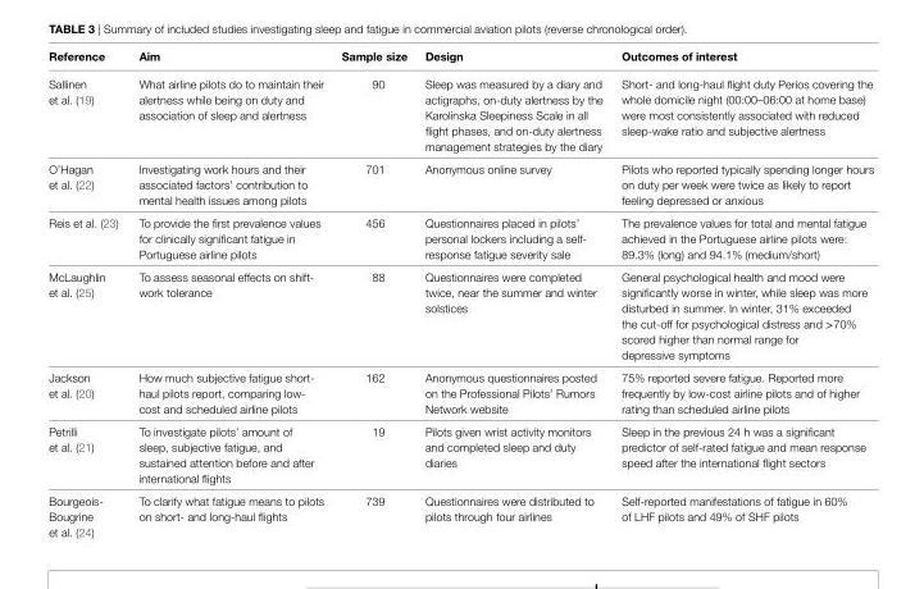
<table><thead><tr><td>Reference</td><td>aim</td><td>Sample size</td><td>Design</td><td>Outcomes of interest</td></tr></thead><tbody><tr><td>Sallinen et al. (19)</td><td>What airline pilots do to maintain their alertness while being on duty and association of sleep and alertness</td><td>90</td><td>Sleep was measured by a diary and actigraphs, on-duty alertness by the Karolinska Sleepiness Scale in all flight phases, and on-duty alertness management strategies by the diary</td><td>Short- and long-haul flight duty Perios covering the whole domicile night (00:00–06:00 at home base) were most consistently associated with reduced sleep-wake ratio and subjective alertness</td></tr><tr><td>O’Hagan et al. (22)</td><td>Investigating work hours and their associated factors’ contribution to mental health issues among pilots</td><td>701</td><td>Anonymous online survey</td><td>Pilots who reported typically spending longer hours on duty per week were twice as likely to report feeling depressed or anxious</td></tr><tr><td>Reis et al. (23)</td><td>To provide the first prevalence values for clinically significant fatigue in Portuguese airline pilots</td><td>456</td><td>Questionnaires placed in pilots’ personal lockers including a self- response fatigue severity sale</td><td>The prevalence values for total and mental fatigue achieved in the Portuguese airline pilots were: 89.3% (long) and 94.1% (medium/short)</td></tr><tr><td>McLaughlin et al. (25)</td><td>To assess seasonal effects on shift- work tolerance</td><td>88</td><td>Questionnaires were completed twice, near the summer and winter solstices</td><td>General psychological health and mood were significantly worse in winter, while sleep was more disturbed in summer. In winter, 31% exceeded the cut-off for psychological distress and &gt;70% scored higher than normal range for depressive symptoms</td></tr><tr><td>Jackson et al. (20)</td><td>How much subjective fatigue short- haul pilots report, comparing low- cost and scheduled airline pilots</td><td>162</td><td>Anonymous questionnaires posted on the Professional Pilots’ Rumors Network website</td><td>75% reported severe fatigue. Reported more frequently by low-cost airline pilots and of higher rating than scheduled airline pilots</td></tr><tr><td>Petrilli et al. (21)</td><td>To investigate pilots’ amount of sleep, subjective fatigue, and sustained attention before and after international flights</td><td>19</td><td>Pilots given wrist activity monitors and completed sleep and duty diaries</td><td>Sleep in the previous 24 h was a significant predictor of self-rated fatigue and mean response speed after the international flight sectors</td></tr><tr><td>Bourgeois- Bougrine et al. (24)</td><td>To clarify what fatigue means to pilots on short- and long-haul flights</td><td>739</td><td>Questionnaires were distributed to pilots through four airlines</td><td>Self-reported manifestations of fatigue in 60% of LHF pilots and 49% of SHF pilots</td></tr></tbody></table>